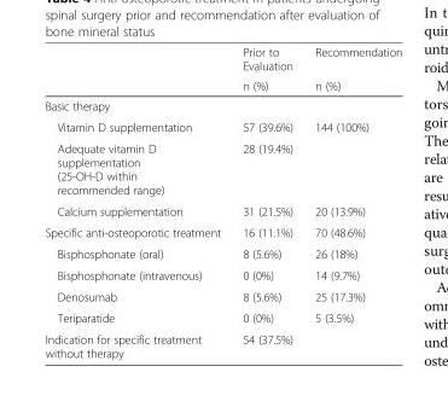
<table><thead><tr><td rowspan="2"></td><td rowspan="2">Prior to Evaluation n (%)</td><td rowspan="2">Recommendation n (%)</td></tr><tr></tr></thead><tbody><tr><td colspan="3">Basic therapy</td></tr><tr><td>Vitamin D supplementation</td><td>57 (39.6%)</td><td>144 (100%)</td></tr><tr><td>Adequate vitamin D supplementation (25-OH-D within recommended range)</td><td>28 (19.4%)</td><td></td></tr><tr><td>Calcium supplementation</td><td>31 (21.5%)</td><td>20 (13.9%)</td></tr><tr><td>Specific anti-osteoporotic treatment</td><td>16 (11.1%)</td><td>70 (48.6%)</td></tr><tr><td>Bisphosphonate (oral)</td><td>8 (5.6%)</td><td>26 (18%)</td></tr><tr><td>Bisphosphonate (intravenous)</td><td>0 (0%)</td><td>14 (9.7%)</td></tr><tr><td>Denosumab</td><td>8 (5.6%)</td><td>25 (17.3%)</td></tr><tr><td>Teriparatide</td><td>0 (0%)</td><td>5 (3.5%)</td></tr><tr><td>Indication for specific treatment without therapy</td><td>54 (37.5%)</td><td></td></tr></tbody></table>